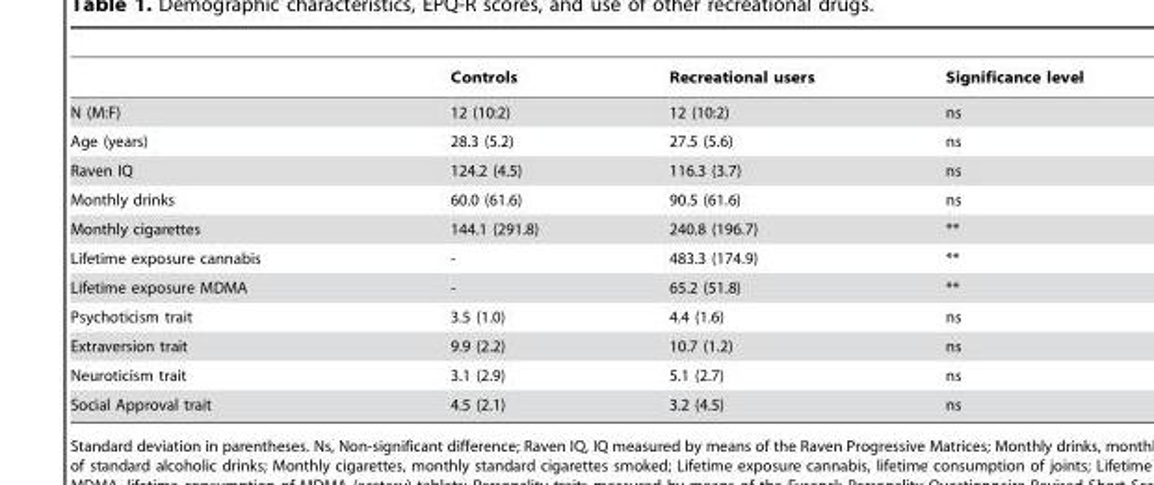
<table><thead><tr><td></td><td>Controls</td><td>Recreational users</td><td>Significance level</td></tr></thead><tbody><tr><td>N (M:F)</td><td>12 (10:2)</td><td>12 (10:2)</td><td>ns</td></tr><tr><td>Age (years)</td><td>28.3 (5.2)</td><td>27.5 (5.6)</td><td>ns</td></tr><tr><td>Raven IQ</td><td>124.2 (4.5)</td><td>116.3 (3.7)</td><td>ns</td></tr><tr><td>Monthly drinks</td><td>60.0 (61.6)</td><td>90.5 (61.6)</td><td>ns</td></tr><tr><td>Monthly cigarettes</td><td>144.1 (291.8)</td><td>240.8 (196.7)</td><td>**</td></tr><tr><td>Lifetime exposure cannabis</td><td>-</td><td>483.3 (174.9)</td><td>**</td></tr><tr><td>Lifetime exposure MDMA</td><td>-</td><td>65.2 (51.8)</td><td>**</td></tr><tr><td>Psychoticism trait</td><td>3.5 (1.0)</td><td>4.4 (1.6)</td><td>ns</td></tr><tr><td>Extraversion trait</td><td>9.9 (2.2)</td><td>10.7 (1.2)</td><td>ns</td></tr><tr><td>Neuroticism trait</td><td>3.1 (2.9)</td><td>5.1 (2.7)</td><td>ns</td></tr><tr><td>Social Approval trait</td><td>4.5 (2.1)</td><td>3.2 (4.5)</td><td>ns</td></tr></tbody></table>